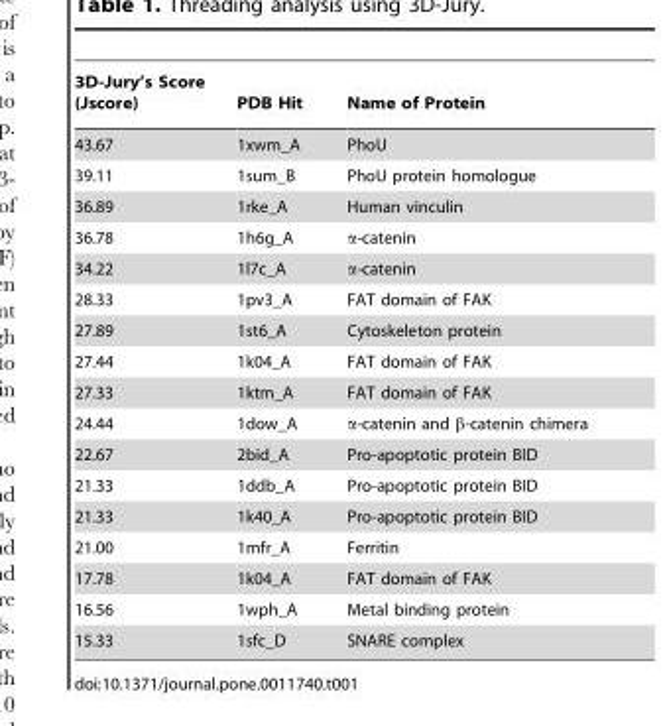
<table><thead><tr><td>3D-Jury’s Score (Jscore)</td><td>PDB Hit</td><td>Name of Protein</td></tr></thead><tbody><tr><td>43.67</td><td>1xwm_A</td><td>PhoU</td></tr><tr><td>39.11</td><td>1sum_B</td><td>PhoU protein homologue</td></tr><tr><td>36.89</td><td>1rke_A</td><td>Human vinculin</td></tr><tr><td>36.78</td><td>1h6g_A</td><td>α-catenin</td></tr><tr><td>34.22</td><td>1l7c_A</td><td>α-catenin</td></tr><tr><td>28.33</td><td>1pv3_A</td><td>FAT domain of FAK</td></tr><tr><td>27.89</td><td>1st6_A</td><td>Cytoskeleton protein</td></tr><tr><td>27.44</td><td>1k04_A</td><td>FAT domain of FAK</td></tr><tr><td>27.33</td><td>1ktm_A</td><td>FAT domain of FAK</td></tr><tr><td>24.44</td><td>1dow_A</td><td>α-catenin and β-catenin chimera</td></tr><tr><td>22.67</td><td>2bid_A</td><td>Pro-apoptotic protein BID</td></tr><tr><td>21.33</td><td>1ddb_A</td><td>Pro-apoptotic protein BID</td></tr><tr><td>21.33</td><td>1k40_A</td><td>Pro-apoptotic protein BID</td></tr><tr><td>21.00</td><td>1mfr_A</td><td>Ferritin</td></tr><tr><td>17.78</td><td>1k04_A</td><td>FAT domain of FAK</td></tr><tr><td>16.56</td><td>1wph_A</td><td>Metal binding protein</td></tr><tr><td>15.33</td><td>1sfc_D</td><td>SNARE complex</td></tr></tbody></table>